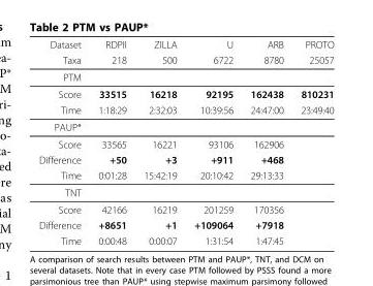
<table><thead><tr><td rowspan="2">Dataset Taxa</td><td rowspan="2">RDPII 218</td><td rowspan="2">ZILLA 500</td><td rowspan="2">U 6722</td><td rowspan="2">ARB 8780</td><td rowspan="2">PROTO 25057</td></tr><tr></tr></thead><tbody><tr><td colspan="6">PTM</td></tr><tr><td>Score</td><td>33515</td><td>16218</td><td>92195</td><td>162438</td><td>810231</td></tr><tr><td>Time</td><td>1:18:29</td><td>2:32:03</td><td>10:39:56</td><td>24:47:00</td><td>23:49:40</td></tr><tr><td colspan="6">PAUP*</td></tr><tr><td>Score</td><td>33565</td><td>16221</td><td>93106</td><td>162906</td><td></td></tr><tr><td>Difference</td><td>+50</td><td>+3</td><td>+911</td><td>+468</td><td></td></tr><tr><td>Time</td><td>0:01:28</td><td>15:42:19</td><td>20:10:42</td><td>29:13:33</td><td></td></tr><tr><td colspan="6">TNT</td></tr><tr><td>Score</td><td>42166</td><td>16219</td><td>201259</td><td>170356</td><td></td></tr><tr><td>Difference</td><td>+8651</td><td>+1</td><td>+109064</td><td>+7918</td><td></td></tr><tr><td>Time</td><td>0:00:48</td><td>0:00:07</td><td>1:31:54</td><td>1:47:45</td><td></td></tr></tbody></table>